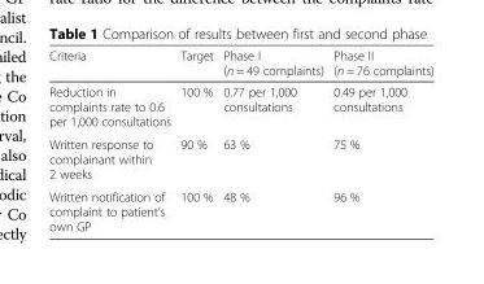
<table><thead><tr><td>Criteria</td><td>Target</td><td>Phase I (n = 49 complaints)</td><td>Phase II (n = 76 complaints)</td></tr></thead><tbody><tr><td>Reduction in complaints rate to 0.6 per 1,000 consultations</td><td>100 %</td><td>0.77 per 1,000 consultations</td><td>0.49 per 1,000 consultations</td></tr><tr><td>Written response to complainant within 2 weeks</td><td>90 %</td><td>63 %</td><td>75 %</td></tr><tr><td>Written notification of complaint to patient’s own GP</td><td>100 %</td><td>48 %</td><td>96 %</td></tr></tbody></table>